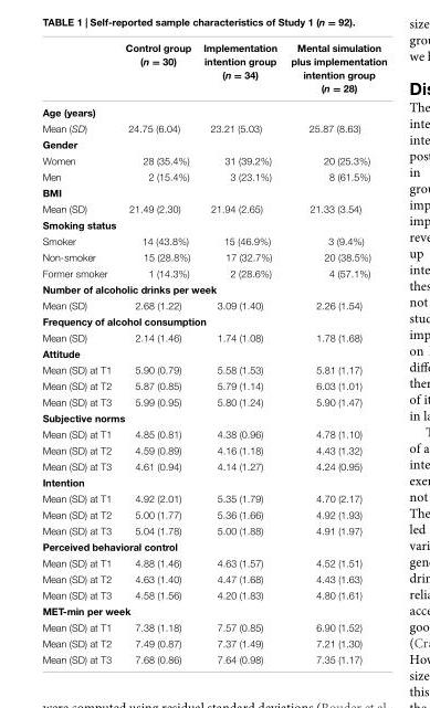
<table><thead><tr><td></td><td>Control group (n = 30)</td><td>Implementation intention group (n = 34)</td><td>Mental simulation plus implementation intention group (n = 28)</td></tr></thead><tbody><tr><td colspan="4">Age (years)</td></tr><tr><td>Mean (SD)</td><td>24.75 (6.04)</td><td>23.21 (5.03)</td><td>25.87 (8.63)</td></tr><tr><td colspan="4">Gender</td></tr><tr><td>Women</td><td>28 (35.4%)</td><td>31 (39.2%)</td><td>20 (25.3%)</td></tr><tr><td>Men</td><td>2 (15.4%)</td><td>3 (23.1%)</td><td>8 (61.5%)</td></tr><tr><td colspan="4">BMI</td></tr><tr><td>Mean (SD)</td><td>21.49 (2.30)</td><td>21.94 (2.65)</td><td>21.33 (3.54)</td></tr><tr><td colspan="4">Smoking status</td></tr><tr><td>Smoker</td><td>14 (43.8%)</td><td>15 (46.9%)</td><td>3 (9.4%)</td></tr><tr><td>Non-smoker</td><td>15 (28.8%)</td><td>17 (32.7%)</td><td>20 (38.5%)</td></tr><tr><td>Former smoker</td><td>1 (14.3%)</td><td>2 (28.6%)</td><td>4 (57.1%)</td></tr><tr><td colspan="4">Number of alcoholic drinks per week</td></tr><tr><td>Mean (SD)</td><td>2.68 (1.22)</td><td>3.09 (1.40)</td><td>2.26 (1.54)</td></tr><tr><td colspan="4">Frequency of alcohol consumption</td></tr><tr><td>Mean (SD)</td><td>2.14 (1.46)</td><td>1.74 (1.08)</td><td>1.78 (1.68)</td></tr><tr><td colspan="4">Attitude</td></tr><tr><td>Mean (SD) at T1</td><td>5.90 (0.79)</td><td>5.58 (1.53)</td><td>5.81 (1.17)</td></tr><tr><td>Mean (SD) at T2</td><td>5.87 (0.85)</td><td>5.79 (1.14)</td><td>6.03 (1.01)</td></tr><tr><td>Mean (SD) at T3</td><td>5.99 (0.95)</td><td>5.80 (1.24)</td><td>5.90 (1.47)</td></tr><tr><td colspan="4">Subjective norms</td></tr><tr><td>Mean (SD) at T1</td><td>4.85 (0.81)</td><td>4.38 (0.96)</td><td>4.78 (1.10)</td></tr><tr><td>Mean (SD) at T2</td><td>4.59 (0.89)</td><td>4.16 (1.18)</td><td>4.43 (1.32)</td></tr><tr><td>Mean (SD) at T3</td><td>4.61 (0.94)</td><td>4.14 (1.27)</td><td>4.24 (0.95)</td></tr><tr><td colspan="4">Intention</td></tr><tr><td>Mean (SD) at T1</td><td>4.92 (2.01)</td><td>5.35 (1.79)</td><td>4.70 (2.17)</td></tr><tr><td>Mean (SD) at T2</td><td>5.00 (1.77)</td><td>5.36 (1.66)</td><td>4.92 (1.93)</td></tr><tr><td>Mean (SD) at T3</td><td>5.04 (1.78)</td><td>5.00 (1.88)</td><td>4.91 (1.97)</td></tr><tr><td colspan="4">Perceived behavioral control</td></tr><tr><td>Mean (SD) at T1</td><td>4.88 (1.46)</td><td>4.63 (1.57)</td><td>4.52 (1.51)</td></tr><tr><td>Mean (SD) at T2</td><td>4.63 (1.40)</td><td>4.47 (1.68)</td><td>4.43 (1.63)</td></tr><tr><td>Mean (SD) at T3</td><td>4.58 (1.56)</td><td>4.20 (1.83)</td><td>4.80 (1.61)</td></tr><tr><td colspan="4">MET-min per week</td></tr><tr><td>Mean (SD) at T1</td><td>7.38 (1.18)</td><td>7.57 (0.85)</td><td>6.90 (1.52)</td></tr><tr><td>Mean (SD) at T2</td><td>7.49 (0.87)</td><td>7.37 (1.49)</td><td>7.21 (1.30)</td></tr><tr><td>Mean (SD) at T3</td><td>7.68 (0.86)</td><td>7.64 (0.98)</td><td>7.35 (1.17)</td></tr></tbody></table>